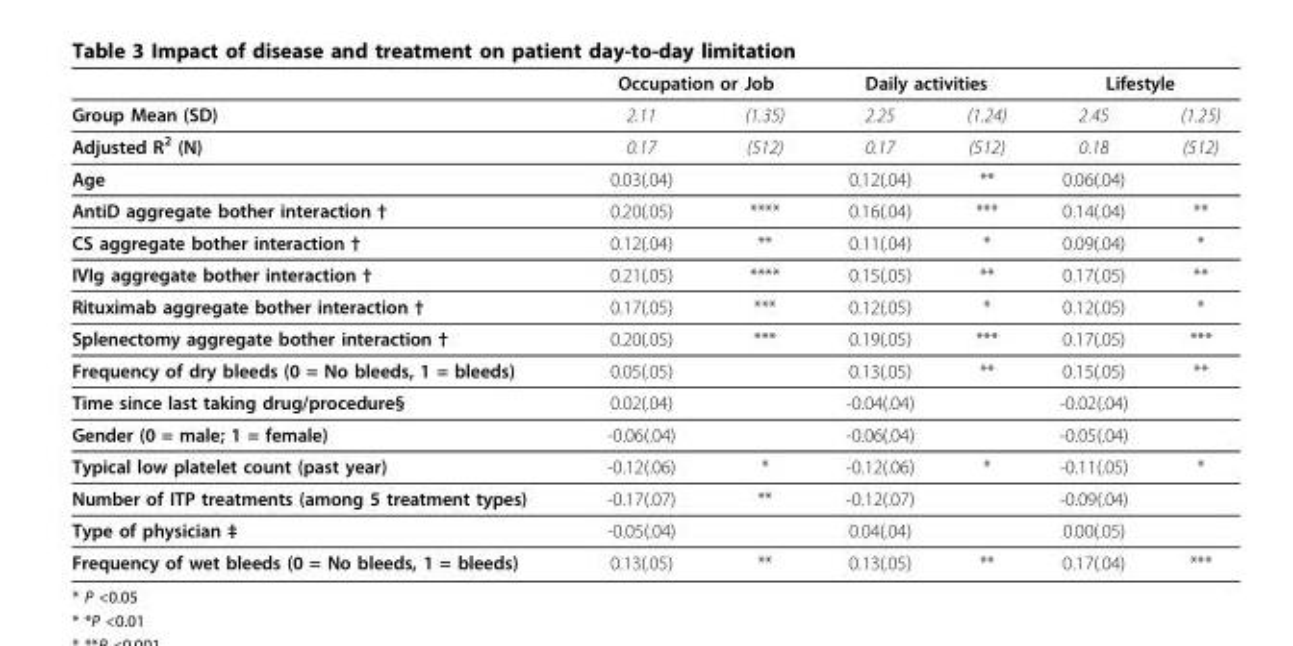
<table><thead><tr><td rowspan="2">Group Mean (SD)</td><td colspan="2">Occupation or Job</td><td colspan="2">Daily activities</td><td colspan="2">Lifestyle</td></tr><tr><td>2.11</td><td>(1.35)</td><td>2.25</td><td>(1.24)</td><td>2.45</td><td>(1.25)</td></tr></thead><tbody><tr><td>Adjusted R<sup>2</sup> (N)</td><td>0.17</td><td>(512)</td><td>0.17</td><td>(512)</td><td>0.18</td><td>(512)</td></tr><tr><td>Age</td><td>0.03(.04)</td><td></td><td>0.12(.04)</td><td>**</td><td>0.06(.04)</td><td></td></tr><tr><td>AntiD aggregate bother interaction †</td><td>0.20(.05)</td><td>****</td><td>0.16(.04)</td><td>***</td><td>0.14(.04)</td><td>**</td></tr><tr><td>CS aggregate bother interaction †</td><td>0.12(.04)</td><td>**</td><td>0.11(.04)</td><td>*</td><td>0.09(.04)</td><td>*</td></tr><tr><td>IVIg aggregate bother interaction †</td><td>0.21(.05)</td><td>****</td><td>0.15(.05)</td><td>**</td><td>0.17(.05)</td><td>**</td></tr><tr><td>Rituximab aggregate bother interaction †</td><td>0.17(.05)</td><td>***</td><td>0.12(.05)</td><td>*</td><td>0.12(.05)</td><td>*</td></tr><tr><td>Splenectomy aggregate bother interaction †</td><td>0.20(.05)</td><td>***</td><td>0.19(.05)</td><td>***</td><td>0.17(.05)</td><td>***</td></tr><tr><td>Frequency of dry bleeds (0 = No bleeds, 1 = bleeds)</td><td>0.05(.05)</td><td></td><td>0.13(.05)</td><td>**</td><td>0.15(.05)</td><td>**</td></tr><tr><td>Time since last taking drug/procedure§</td><td>0.02(.04)</td><td></td><td>-0.04(.04)</td><td></td><td>-0.02(.04)</td><td></td></tr><tr><td>Gender (0 = male; 1 = female)</td><td>-0.06(.04)</td><td></td><td>-0.06(.04)</td><td></td><td>-0.05(.04)</td><td></td></tr><tr><td>Typical low platelet count (past year)</td><td>-0.12(.06)</td><td>*</td><td>-0.12(.06)</td><td>*</td><td>-0.11(.05)</td><td>*</td></tr><tr><td>Number of ITP treatments (among 5 treatment types)</td><td>-0.17(.07)</td><td>**</td><td>-0.12(.07)</td><td></td><td>-0.09(.04)</td><td></td></tr><tr><td>Type of physician ‡</td><td>-0.05(.04)</td><td></td><td>0.04(.04)</td><td></td><td>0.00(.05)</td><td></td></tr><tr><td>Frequency of wet bleeds (0 = No bleeds, 1 = bleeds)</td><td>0.13(.05)</td><td>**</td><td>0.13(.05)</td><td>**</td><td>0.17(.04)</td><td>***</td></tr></tbody></table>